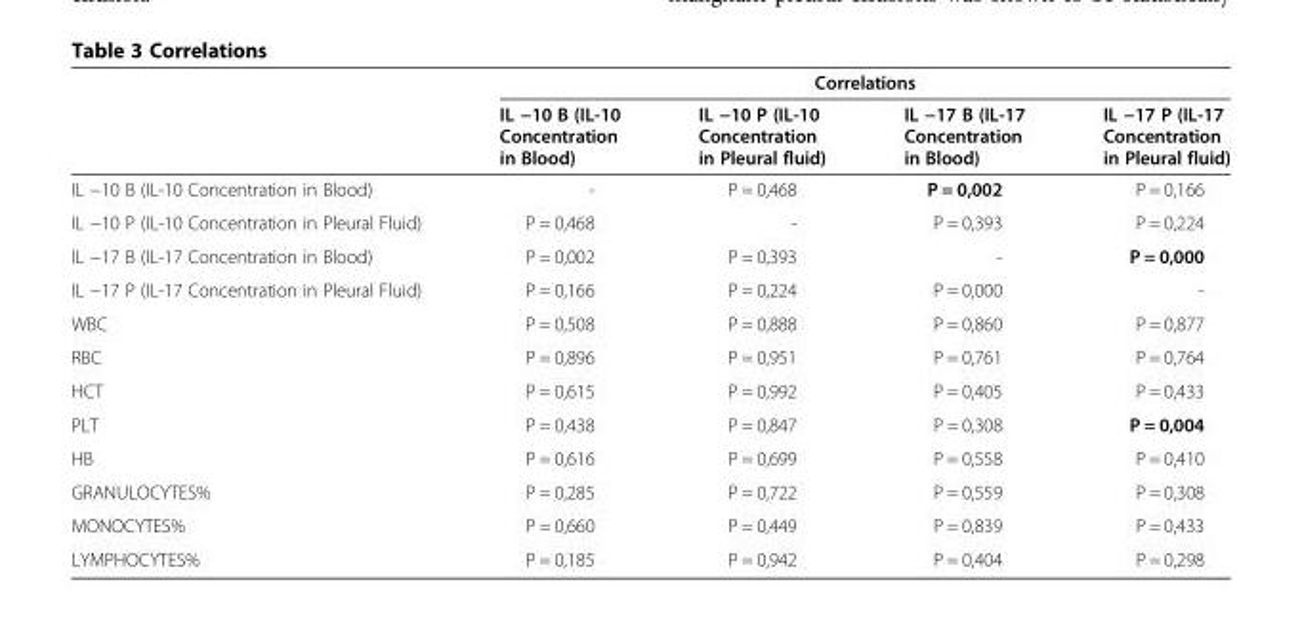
<table><thead><tr><td rowspan="2"></td><td colspan="4">Correlations</td></tr><tr><td>IL −10 B (IL-10 Concentration in Blood)</td><td>IL −10 P (IL-10 Concentration in Pleural fluid)</td><td>IL −17 B (IL-17 Concentration in Blood)</td><td>IL −17 P (IL-17 Concentration in Pleural fluid)</td></tr></thead><tbody><tr><td>IL −10 B (IL-10 Concentration in Blood)</td><td>-</td><td>P = 0,468</td><td>P = 0,002</td><td>P = 0,166</td></tr><tr><td>IL −10 P (IL-10 Concentration in Pleural Fluid)</td><td>P = 0,468</td><td>-</td><td>P = 0,393</td><td>P = 0,224</td></tr><tr><td>IL −17 B (IL-17 Concentration in Blood)</td><td>P = 0,002</td><td>P = 0,393</td><td>-</td><td>P = 0,000</td></tr><tr><td>IL −17 P (IL-17 Concentration in Pleural Fluid)</td><td>P = 0,166</td><td>P = 0,224</td><td>P = 0,000</td><td>-</td></tr><tr><td>WBC</td><td>P = 0,508</td><td>P = 0,888</td><td>P = 0,860</td><td>P = 0,877</td></tr><tr><td>RBC</td><td>P = 0,896</td><td>P = 0,951</td><td>P = 0,761</td><td>P = 0,764</td></tr><tr><td>HCT</td><td>P = 0,615</td><td>P = 0,992</td><td>P = 0,405</td><td>P = 0,433</td></tr><tr><td>PLT</td><td>P = 0,438</td><td>P = 0,847</td><td>P = 0,308</td><td>P = 0,004</td></tr><tr><td>HB</td><td>P = 0,616</td><td>P = 0,699</td><td>P = 0,558</td><td>P = 0,410</td></tr><tr><td>GRANULOCYTES%</td><td>P = 0,285</td><td>P = 0,722</td><td>P = 0,559</td><td>P = 0,308</td></tr><tr><td>MONOCYTES%</td><td>P = 0,660</td><td>P = 0,449</td><td>P = 0,839</td><td>P = 0,433</td></tr><tr><td>LYMPHOCYTES%</td><td>P = 0,185</td><td>P = 0,942</td><td>P = 0,404</td><td>P = 0,298</td></tr></tbody></table>